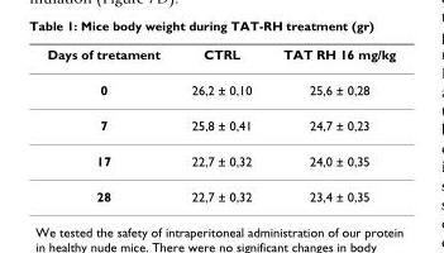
<table><thead><tr><td>Days of tretament</td><td>CTRL</td><td>TAT RH 16 mg/kg</td></tr></thead><tbody><tr><td>0</td><td>26,2 ± 0,10</td><td>25,6 ± 0,28</td></tr><tr><td>7</td><td>25,8 ± 0,41</td><td>24,7 ± 0,23</td></tr><tr><td>17</td><td>22,7 ± 0,32</td><td>24,0 ± 0,35</td></tr><tr><td>28</td><td>22,7 ± 0,32</td><td>23,4 ± 0,35</td></tr></tbody></table>